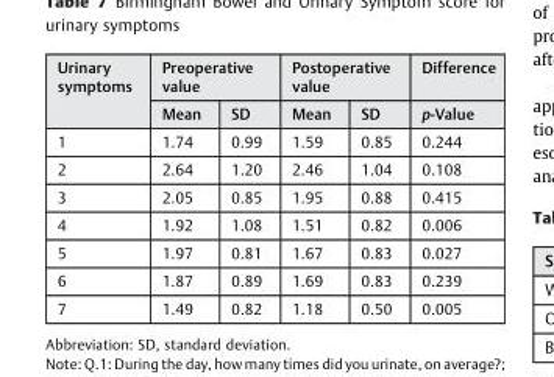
<table><thead><tr><td rowspan="2">Urinary symptoms</td><td colspan="2">Preoperative value</td><td colspan="2">Postoperative value</td><td rowspan="2">Difference p-Value</td></tr><tr><td>Mean</td><td>SD</td><td>Mean</td><td>SD</td></tr></thead><tbody><tr><td>1</td><td>1.74</td><td>0.99</td><td>1.59</td><td>0.85</td><td>0.244</td></tr><tr><td>2</td><td>2.64</td><td>1.20</td><td>2.46</td><td>1.04</td><td>0.108</td></tr><tr><td>3</td><td>2.05</td><td>0.85</td><td>1.95</td><td>0.88</td><td>0.415</td></tr><tr><td>4</td><td>1.92</td><td>1.08</td><td>1.51</td><td>0.82</td><td>0.006</td></tr><tr><td>5</td><td>1.97</td><td>0.81</td><td>1.67</td><td>0.83</td><td>0.027</td></tr><tr><td>6</td><td>1.87</td><td>0.89</td><td>1.69</td><td>0.83</td><td>0.239</td></tr><tr><td>7</td><td>1.49</td><td>0.82</td><td>1.18</td><td>0.50</td><td>0.005</td></tr></tbody></table>